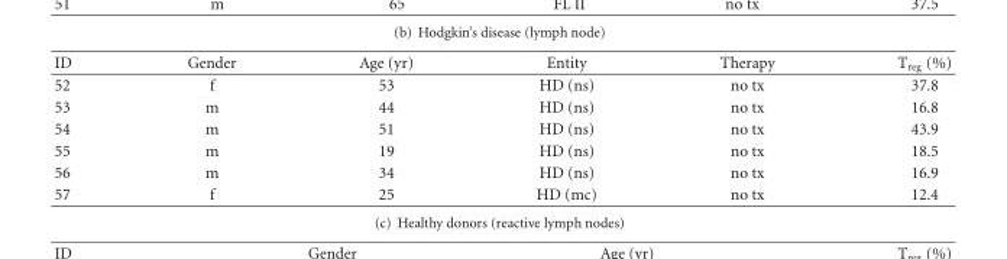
<table><thead><tr><td>ID</td><td>Gender</td><td>Age (yr)</td><td>Entity</td><td>Therapy</td><td>T<sub>reg</sub> (%)</td></tr></thead><tbody><tr><td>52</td><td>f</td><td>53</td><td>HD (ns)</td><td>no tx</td><td>37.8</td></tr><tr><td>53</td><td>m</td><td>44</td><td>HD (ns)</td><td>no tx</td><td>16.8</td></tr><tr><td>54</td><td>m</td><td>51</td><td>HD (ns)</td><td>no tx</td><td>43.9</td></tr><tr><td>55</td><td>m</td><td>19</td><td>HD (ns)</td><td>no tx</td><td>18.5</td></tr><tr><td>56</td><td>m</td><td>34</td><td>HD (ns)</td><td>no tx</td><td>16.9</td></tr><tr><td>57</td><td>f</td><td>25</td><td>HD (mc)</td><td>no tx</td><td>12.4</td></tr></tbody></table>